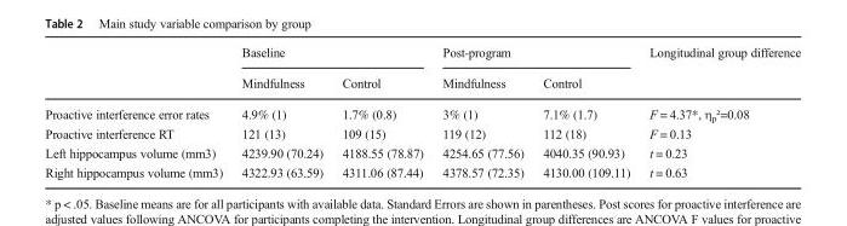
<table><thead><tr><td rowspan="2"></td><td colspan="2">Baseline</td><td colspan="2">Post-program</td><td rowspan="2">Longitudinal group difference</td></tr><tr><td>Mindfulness</td><td>Control</td><td>Mindfulness</td><td>Control</td></tr></thead><tbody><tr><td>Proactive interference error rates</td><td>4.9% (1)</td><td>1.7% (0.8)</td><td>3% (1)</td><td>7.1% (1.7)</td><td>F = 4.37*, η<sub>p</sub>²=0.08</td></tr><tr><td>Proactive interference RT</td><td>121 (13)</td><td>109 (15)</td><td>119 (12)</td><td>112 (18)</td><td>F = 0.13</td></tr><tr><td>Left hippocampus volume (mm3)</td><td>4239.90 (70.24)</td><td>4188.55 (78.87)</td><td>4254.65 (77.56)</td><td>4040.35 (90.93)</td><td>t = 0.23</td></tr><tr><td>Right hippocampus volume (mm3)</td><td>4322.93 (63.59)</td><td>4311.06 (87.44)</td><td>4378.57 (72.35)</td><td>4130.00 (109.11)</td><td>t = 0.63</td></tr></tbody></table>